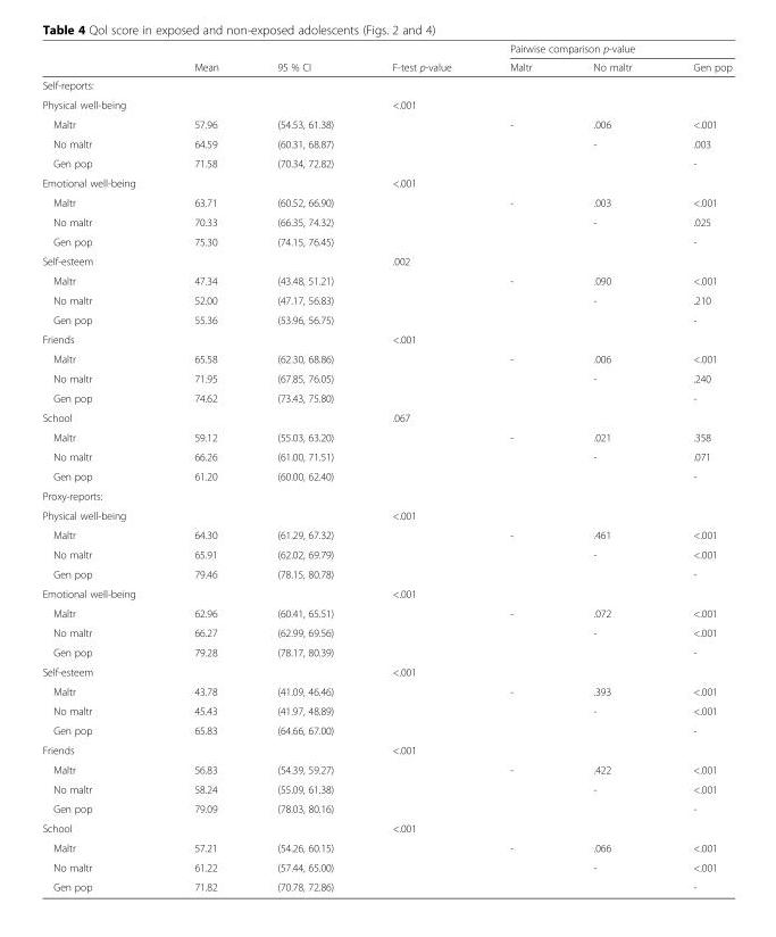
<table><thead><tr><td rowspan="2"></td><td rowspan="2">Mean</td><td rowspan="2">95 % CI</td><td rowspan="2">F-test p-value</td><td colspan="3">Pairwise comparison p-value</td></tr><tr><td>Maltr</td><td>No maltr</td><td>Gen pop</td></tr></thead><tbody><tr><td colspan="7">Self-reports:</td></tr><tr><td>Physical well-being</td><td></td><td></td><td>&lt;.001</td><td></td><td></td><td></td></tr><tr><td>Maltr</td><td>57.96</td><td>(54.53, 61.38)</td><td></td><td>-</td><td>.006</td><td>&lt;.001</td></tr><tr><td>No maltr</td><td>64.59</td><td>(60.31, 68.87)</td><td></td><td></td><td>-</td><td>.003</td></tr><tr><td>Gen pop</td><td>71.58</td><td>(70.34, 72.82)</td><td></td><td></td><td></td><td>-</td></tr><tr><td>Emotional well-being</td><td></td><td></td><td>&lt;.001</td><td></td><td></td><td></td></tr><tr><td>Maltr</td><td>63.71</td><td>(60.52, 66.90)</td><td></td><td>-</td><td>.003</td><td>&lt;.001</td></tr><tr><td>No maltr</td><td>70.33</td><td>(66.35, 74.32)</td><td></td><td></td><td>-</td><td>.025</td></tr><tr><td>Gen pop</td><td>75.30</td><td>(74.15, 76.45)</td><td></td><td></td><td></td><td>-</td></tr><tr><td>Self-esteem</td><td></td><td></td><td>.002</td><td></td><td></td><td></td></tr><tr><td>Maltr</td><td>47.34</td><td>(43.48, 51.21)</td><td></td><td>-</td><td>.090</td><td>&lt;.001</td></tr><tr><td>No maltr</td><td>52.00</td><td>(47.17, 56.83)</td><td></td><td></td><td>-</td><td>.210</td></tr><tr><td>Gen pop</td><td>55.36</td><td>(53.96, 56.75)</td><td></td><td></td><td></td><td>-</td></tr><tr><td>Friends</td><td></td><td></td><td>&lt;.001</td><td></td><td></td><td></td></tr><tr><td>Maltr</td><td>65.58</td><td>(62.30, 68.86)</td><td></td><td>-</td><td>.006</td><td>&lt;.001</td></tr><tr><td>No maltr</td><td>71.95</td><td>(67.85, 76.05)</td><td></td><td></td><td>-</td><td>.240</td></tr><tr><td>Gen pop</td><td>74.62</td><td>(73.43, 75.80)</td><td></td><td></td><td></td><td>-</td></tr><tr><td>School</td><td></td><td></td><td>.067</td><td></td><td></td><td></td></tr><tr><td>Maltr</td><td>59.12</td><td>(55.03, 63.20)</td><td></td><td>-</td><td>.021</td><td>.358</td></tr><tr><td>No maltr</td><td>66.26</td><td>(61.00, 71.51)</td><td></td><td></td><td>-</td><td>.071</td></tr><tr><td>Gen pop</td><td>61.20</td><td>(60.00, 62.40)</td><td></td><td></td><td></td><td>-</td></tr><tr><td colspan="7">Proxy-reports:</td></tr><tr><td>Physical well-being</td><td></td><td></td><td>&lt;.001</td><td></td><td></td><td></td></tr><tr><td>Maltr</td><td>64.30</td><td>(61.29, 67.32)</td><td></td><td>-</td><td>.461</td><td>&lt;.001</td></tr><tr><td>No maltr</td><td>65.91</td><td>(62.02, 69.79)</td><td></td><td></td><td>-</td><td>&lt;.001</td></tr><tr><td>Gen pop</td><td>79.46</td><td>(78.15, 80.78)</td><td></td><td></td><td></td><td>-</td></tr><tr><td>Emotional well-being</td><td></td><td></td><td>&lt;.001</td><td></td><td></td><td></td></tr><tr><td>Maltr</td><td>62.96</td><td>(60.41, 65.51)</td><td></td><td>-</td><td>.072</td><td>&lt;.001</td></tr><tr><td>No maltr</td><td>66.27</td><td>(62.99, 69.56)</td><td></td><td></td><td>-</td><td>&lt;.001</td></tr><tr><td>Gen pop</td><td>79.28</td><td>(78.17, 80.39)</td><td></td><td></td><td></td><td>-</td></tr><tr><td>Self-esteem</td><td></td><td></td><td>&lt;.001</td><td></td><td></td><td></td></tr><tr><td>Maltr</td><td>43.78</td><td>(41.09, 46.46)</td><td></td><td>-</td><td>.393</td><td>&lt;.001</td></tr><tr><td>No maltr</td><td>45.43</td><td>(41.97, 48.89)</td><td></td><td></td><td>-</td><td>&lt;.001</td></tr><tr><td>Gen pop</td><td>65.83</td><td>(64.66, 67.00)</td><td></td><td></td><td></td><td>-</td></tr><tr><td>Friends</td><td></td><td></td><td>&lt;.001</td><td></td><td></td><td></td></tr><tr><td>Maltr</td><td>56.83</td><td>(54.39, 59.27)</td><td></td><td>-</td><td>.422</td><td>&lt;.001</td></tr><tr><td>No maltr</td><td>58.24</td><td>(55.09, 61.38)</td><td></td><td></td><td>-</td><td>&lt;.001</td></tr><tr><td>Gen pop</td><td>79.09</td><td>(78.03, 80.16)</td><td></td><td></td><td></td><td>-</td></tr><tr><td>School</td><td></td><td></td><td>&lt;.001</td><td></td><td></td><td></td></tr><tr><td>Maltr</td><td>57.21</td><td>(54.26, 60.15)</td><td></td><td>-</td><td>.066</td><td>&lt;.001</td></tr><tr><td>No maltr</td><td>61.22</td><td>(57.44, 65.00)</td><td></td><td></td><td>-</td><td>&lt;.001</td></tr><tr><td>Gen pop</td><td>71.82</td><td>(70.78, 72.86)</td><td></td><td></td><td></td><td>-</td></tr></tbody></table>